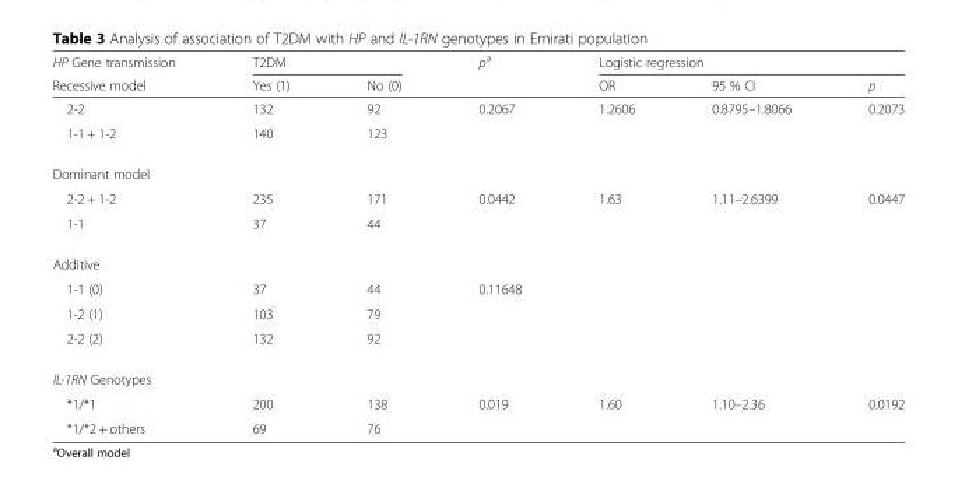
<table><thead><tr><td rowspan="2">HP Gene transmission Recessive model</td><td colspan="2">T2DM</td><td rowspan="2">p<sup>a</sup></td><td colspan="3">Logistic regression</td></tr><tr><td>Yes (1)</td><td>No (0)</td><td>OR</td><td>95 % CI</td><td>p</td></tr></thead><tbody><tr><td>2-2</td><td>132</td><td>92</td><td rowspan="2">0.2067</td><td rowspan="2">1.2606</td><td rowspan="2">0.8795–1.8066</td><td rowspan="2">0.2073</td></tr><tr><td>1-1 + 1-2</td><td>140</td><td>123</td></tr><tr><td colspan="7">Dominant model</td></tr><tr><td>2-2 + 1-2</td><td>235</td><td>171</td><td rowspan="2">0.0442</td><td rowspan="2">1.63</td><td rowspan="2">1.11–2.6399</td><td rowspan="2">0.0447</td></tr><tr><td>1-1</td><td>37</td><td>44</td></tr><tr><td colspan="7">Additive</td></tr><tr><td>1-1 (0)</td><td>37</td><td>44</td><td rowspan="3">0.11648</td><td rowspan="3" colspan="3"></td></tr><tr><td>1-2 (1)</td><td>103</td><td>79</td></tr><tr><td>2-2 (2)</td><td>132</td><td>92</td></tr><tr><td colspan="7">IL-1RN Genotypes</td></tr><tr><td>*1/*1</td><td>200</td><td>138</td><td rowspan="2">0.019</td><td rowspan="2">1.60</td><td rowspan="2">1.10–2.36</td><td rowspan="2">0.0192</td></tr><tr><td>*1/*2 + others</td><td>69</td><td>76</td></tr></tbody></table>